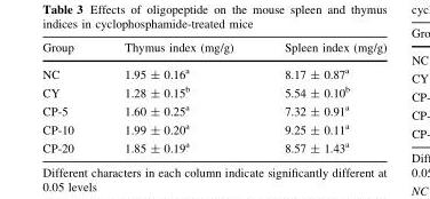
<table><thead><tr><td>Group</td><td>Thymus index (mg/g)</td><td>Spleen index (mg/g)</td></tr></thead><tbody><tr><td>NC</td><td>1.95 ± 0.16<sup>a</sup></td><td>8.17 ± 0.87<sup>a</sup></td></tr><tr><td>CY</td><td>1.28 ± 0.15<sup>b</sup></td><td>5.54 ± 0.10<sup>b</sup></td></tr><tr><td>CP-5</td><td>1.60 ± 0.25<sup>a</sup></td><td>7.32 ± 0.91<sup>a</sup></td></tr><tr><td>CP-10</td><td>1.99 ± 0.20<sup>a</sup></td><td>9.25 ± 0.11<sup>a</sup></td></tr><tr><td>CP-20</td><td>1.85 ± 0.19<sup>a</sup></td><td>8.57 ± 1.43<sup>a</sup></td></tr></tbody></table>